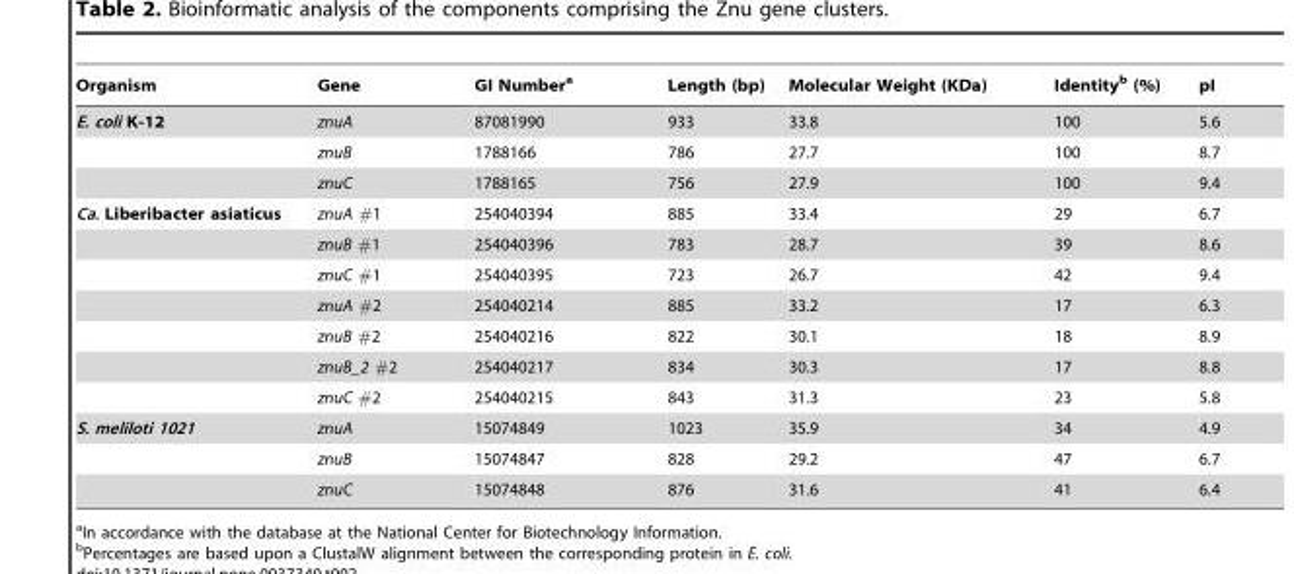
<table><thead><tr><td>Organism</td><td>Gene</td><td>GI Number<sup>a</sup></td><td>Length (bp)</td><td>Molecular Weight (KDa)</td><td>Identity<sup>b</sup> (%)</td><td>pI</td></tr></thead><tbody><tr><td rowspan="3">E. coli K-12</td><td>znuA</td><td>87081990</td><td>933</td><td>33.8</td><td>100</td><td>5.6</td></tr><tr><td>znuB</td><td>1788166</td><td>786</td><td>27.7</td><td>100</td><td>8.7</td></tr><tr><td>znuC</td><td>1788165</td><td>756</td><td>27.9</td><td>100</td><td>9.4</td></tr><tr><td rowspan="7">Ca. Liberibacter asiaticus</td><td>znuA #1</td><td>254040394</td><td>885</td><td>33.4</td><td>29</td><td>6.7</td></tr><tr><td>znuB #1</td><td>254040396</td><td>783</td><td>28.7</td><td>39</td><td>8.6</td></tr><tr><td>znuC #1</td><td>254040395</td><td>723</td><td>26.7</td><td>42</td><td>9.4</td></tr><tr><td>znuA #2</td><td>254040214</td><td>885</td><td>33.2</td><td>17</td><td>6.3</td></tr><tr><td>znuB #2</td><td>254040216</td><td>822</td><td>30.1</td><td>18</td><td>8.9</td></tr><tr><td>znuB_2 #2</td><td>254040217</td><td>834</td><td>30.3</td><td>17</td><td>8.8</td></tr><tr><td>znuC #2</td><td>254040215</td><td>843</td><td>31.3</td><td>23</td><td>5.8</td></tr><tr><td rowspan="3">S. meliloti 1021</td><td>znuA</td><td>15074849</td><td>1023</td><td>35.9</td><td>34</td><td>4.9</td></tr><tr><td>znuB</td><td>15074847</td><td>828</td><td>29.2</td><td>47</td><td>6.7</td></tr><tr><td>znuC</td><td>15074848</td><td>876</td><td>31.6</td><td>41</td><td>6.4</td></tr></tbody></table>